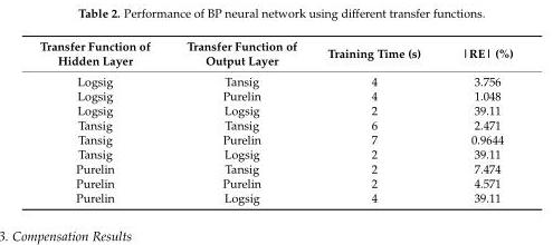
<table><thead><tr><td>Transfer Function of Hidden Layer</td><td>Transfer Function of Output Layer</td><td>Training Time (s)</td><td>|RE| (%)</td></tr></thead><tbody><tr><td>Logsig</td><td>Tansig</td><td>4</td><td>3.756</td></tr><tr><td>Logsig</td><td>Purelin</td><td>4</td><td>1.048</td></tr><tr><td>Logsig</td><td>Logsig</td><td>2</td><td>39.11</td></tr><tr><td>Tansig</td><td>Tansig</td><td>6</td><td>2.471</td></tr><tr><td>Tansig</td><td>Purelin</td><td>7</td><td>0.9644</td></tr><tr><td>Tansig</td><td>Logsig</td><td>2</td><td>39.11</td></tr><tr><td>Purelin</td><td>Tansig</td><td>2</td><td>7.474</td></tr><tr><td>Purelin</td><td>Purelin</td><td>2</td><td>4.571</td></tr><tr><td>Purelin</td><td>Logsig</td><td>4</td><td>39.11</td></tr></tbody></table>